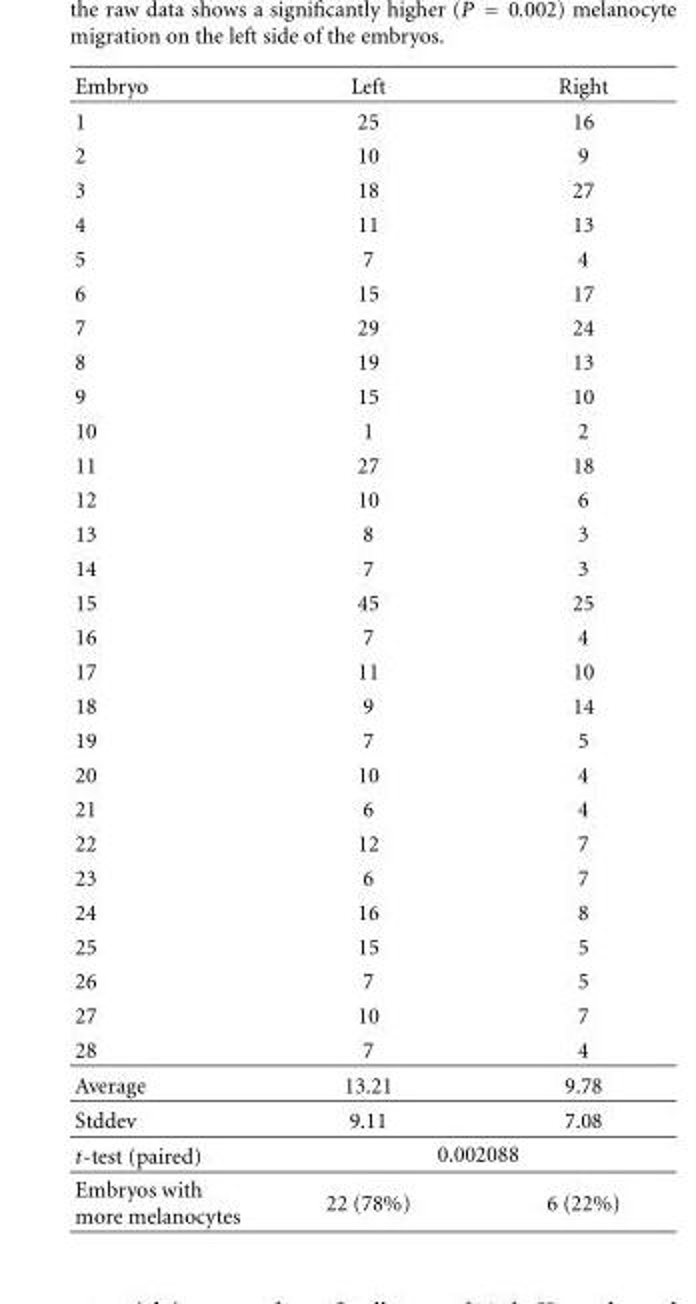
<table><thead><tr><td>Embryo</td><td>Left</td><td>Right</td></tr></thead><tbody><tr><td>1</td><td>25</td><td>16</td></tr><tr><td>2</td><td>10</td><td>9</td></tr><tr><td>3</td><td>18</td><td>27</td></tr><tr><td>4</td><td>11</td><td>13</td></tr><tr><td>5</td><td>7</td><td>4</td></tr><tr><td>6</td><td>15</td><td>17</td></tr><tr><td>7</td><td>29</td><td>24</td></tr><tr><td>8</td><td>19</td><td>13</td></tr><tr><td>9</td><td>15</td><td>10</td></tr><tr><td>10</td><td>1</td><td>2</td></tr><tr><td>11</td><td>27</td><td>18</td></tr><tr><td>12</td><td>10</td><td>6</td></tr><tr><td>13</td><td>8</td><td>3</td></tr><tr><td>14</td><td>7</td><td>3</td></tr><tr><td>15</td><td>45</td><td>25</td></tr><tr><td>16</td><td>7</td><td>4</td></tr><tr><td>17</td><td>11</td><td>10</td></tr><tr><td>18</td><td>9</td><td>14</td></tr><tr><td>19</td><td>7</td><td>5</td></tr><tr><td>20</td><td>10</td><td>4</td></tr><tr><td>21</td><td>6</td><td>4</td></tr><tr><td>22</td><td>12</td><td>7</td></tr><tr><td>23</td><td>6</td><td>7</td></tr><tr><td>24</td><td>16</td><td>8</td></tr><tr><td>25</td><td>15</td><td>5</td></tr><tr><td>26</td><td>7</td><td>5</td></tr><tr><td>27</td><td>10</td><td>7</td></tr><tr><td>28</td><td>7</td><td>4</td></tr><tr><td>Average</td><td>13.21</td><td>9.78</td></tr><tr><td>Stddev</td><td>9.11</td><td>7.08</td></tr><tr><td>t-test (paired)</td><td colspan="2">0.002088</td></tr><tr><td>Embryos with more melanocytes</td><td>22 (78%)</td><td>6 (22%)</td></tr></tbody></table>